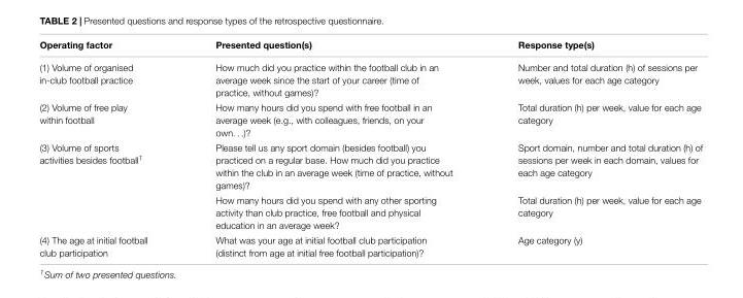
<table><thead><tr><td>Operating factor</td><td>Presented question(s)</td><td>Response type(s)</td></tr></thead><tbody><tr><td>(1) Volume of organised in-club football practice</td><td>How much did you practice within the football club in an average week since the start of your career (time of practice, without games)?</td><td>Number and total duration (h) of sessions per week, values for each age category</td></tr><tr><td>(2) Volume of free play within football</td><td>How many hours did you spend with free football in an average week (e.g., with colleagues, friends, on your own. . .)?</td><td>Total duration (h) per week, value for each age category</td></tr><tr><td rowspan="2">(3) Volume of sports activities besides football<sup>1</sup></td><td>Please tell us any sport domain (besides football) you practiced on a regular base. How much did you practice within the club in an average week (time of practice, without games)?</td><td>Sport domain, number and total duration (h) of sessions per week in each domain, values for each age category</td></tr><tr><td>How many hours did you spend with any other sporting activity than club practice, free football and physical education in an average week?</td><td>Total duration (h) per week, value for each age category</td></tr><tr><td>(4) The age at initial football club participation</td><td>What was your age at initial football club participation (distinct from age at initial free football participation)?</td><td>Age category (y)</td></tr></tbody></table>